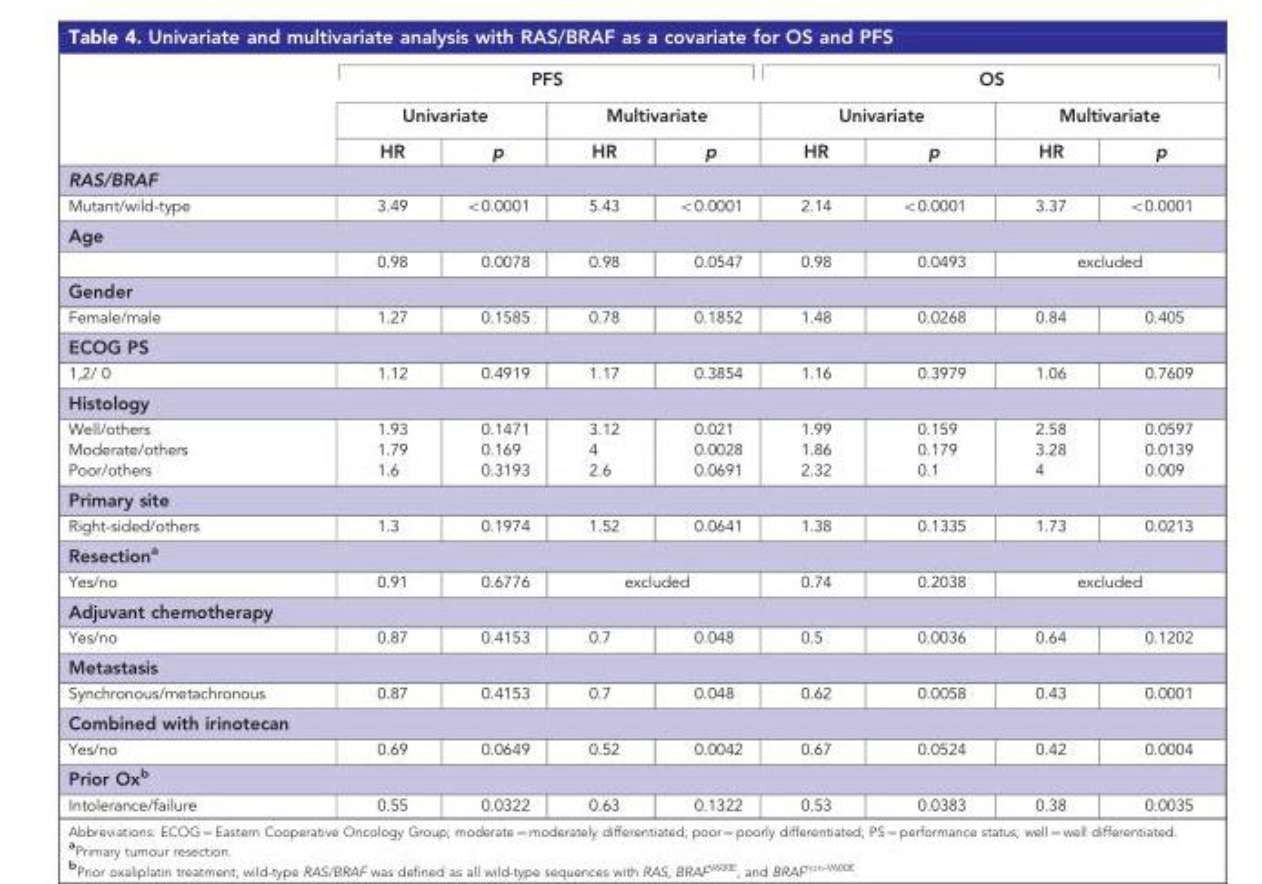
<table><thead><tr><td rowspan="3"></td><td colspan="4">PFS</td><td colspan="4">OS</td></tr><tr><td colspan="2">Univariate</td><td colspan="2">Multivariate</td><td colspan="2">Univariate</td><td colspan="2">Multivariate</td></tr><tr><td>HR</td><td>p</td><td>HR</td><td>p</td><td>HR</td><td>p</td><td>HR</td><td>p</td></tr></thead><tbody><tr><td colspan="9">RAS/BRAF</td></tr><tr><td>Mutant/wild-type</td><td>3.49</td><td>&lt;0.0001</td><td>5.43</td><td>&lt;0.0001</td><td>2.14</td><td>&lt;0.0001</td><td>3.37</td><td>&lt;0.0001</td></tr><tr><td colspan="9">Age</td></tr><tr><td></td><td>0.98</td><td>0.0078</td><td>0.98</td><td>0.0547</td><td>0.98</td><td>0.0493</td><td colspan="2">excluded</td></tr><tr><td colspan="9">Gender</td></tr><tr><td>Female/male</td><td>1.27</td><td>0.1585</td><td>0.78</td><td>0.1852</td><td>1.48</td><td>0.0268</td><td>0.84</td><td>0.405</td></tr><tr><td colspan="9">ECOG PS</td></tr><tr><td>1,2/ 0</td><td>1.12</td><td>0.4919</td><td>1.17</td><td>0.3854</td><td>1.16</td><td>0.3979</td><td>1.06</td><td>0.7609</td></tr><tr><td colspan="9">Histology</td></tr><tr><td>Well/others</td><td>1.93</td><td>0.1471</td><td>3.12</td><td>0.021</td><td>1.99</td><td>0.159</td><td>2.58</td><td>0.0597</td></tr><tr><td>Moderate/others</td><td>1.79</td><td>0.169</td><td>4</td><td>0.0028</td><td>1.86</td><td>0.179</td><td>3.28</td><td>0.0139</td></tr><tr><td>Poor/others</td><td>1.6</td><td>0.3193</td><td>2.6</td><td>0.0691</td><td>2.32</td><td>0.1</td><td>4</td><td>0.009</td></tr><tr><td colspan="9">Primary site</td></tr><tr><td>Right-sided/others</td><td>1.3</td><td>0.1974</td><td>1.52</td><td>0.0641</td><td>1.38</td><td>0.1335</td><td>1.73</td><td>0.0213</td></tr><tr><td colspan="9">Resection<sup>a</sup></td></tr><tr><td>Yes/no</td><td>0.91</td><td>0.6776</td><td colspan="2">excluded</td><td>0.74</td><td>0.2038</td><td colspan="2">excluded</td></tr><tr><td colspan="9">Adjuvant chemotherapy</td></tr><tr><td>Yes/no</td><td>0.87</td><td>0.4153</td><td>0.7</td><td>0.048</td><td>0.5</td><td>0.0036</td><td>0.64</td><td>0.1202</td></tr><tr><td colspan="9">Metastasis</td></tr><tr><td>Synchronous/metachronous</td><td>0.87</td><td>0.4153</td><td>0.7</td><td>0.048</td><td>0.62</td><td>0.0058</td><td>0.43</td><td>0.0001</td></tr><tr><td colspan="9">Combined with irinotecan</td></tr><tr><td>Yes/no</td><td>0.69</td><td>0.0649</td><td>0.52</td><td>0.0042</td><td>0.67</td><td>0.0524</td><td>0.42</td><td>0.0004</td></tr><tr><td colspan="9">Prior Ox<sup>b</sup></td></tr><tr><td>Intolerance/failure</td><td>0.55</td><td>0.0322</td><td>0.63</td><td>0.1322</td><td>0.53</td><td>0.0383</td><td>0.38</td><td>0.0035</td></tr></tbody></table>